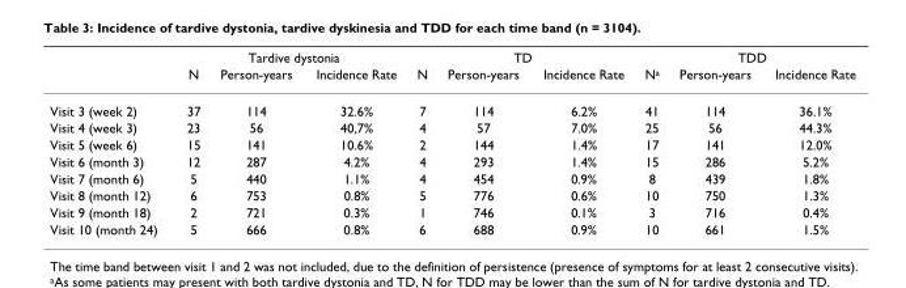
<table><thead><tr><td rowspan="2"></td><td colspan="3">Tardive dystonia</td><td colspan="3">TD</td><td colspan="3">TDD</td></tr><tr><td>N</td><td>Person-years</td><td>Incidence Rate</td><td>N</td><td>Person-years</td><td>Incidence Rate</td><td>N<sup>a</sup></td><td>Person-years</td><td>Incidence Rate</td></tr></thead><tbody><tr><td>Visit 3 (week 2)</td><td>37</td><td>114</td><td>32.6%</td><td>7</td><td>114</td><td>6.2%</td><td>41</td><td>114</td><td>36.1%</td></tr><tr><td>Visit 4 (week 3)</td><td>23</td><td>56</td><td>40,7%</td><td>4</td><td>57</td><td>7.0%</td><td>25</td><td>56</td><td>44.3%</td></tr><tr><td>Visit 5 (week 6)</td><td>15</td><td>141</td><td>10.6%</td><td>2</td><td>144</td><td>1.4%</td><td>17</td><td>141</td><td>12.0%</td></tr><tr><td>Visit 6 (month 3)</td><td>12</td><td>287</td><td>4.2%</td><td>4</td><td>293</td><td>1.4%</td><td>15</td><td>286</td><td>5.2%</td></tr><tr><td>Visit 7 (month 6)</td><td>5</td><td>440</td><td>1.1%</td><td>4</td><td>454</td><td>0.9%</td><td>8</td><td>439</td><td>1.8%</td></tr><tr><td>Visit 8 (month 12)</td><td>6</td><td>753</td><td>0.8%</td><td>5</td><td>776</td><td>0.6%</td><td>10</td><td>750</td><td>1.3%</td></tr><tr><td>Visit 9 (month 18)</td><td>2</td><td>721</td><td>0.3%</td><td>1</td><td>746</td><td>0.1%</td><td>3</td><td>716</td><td>0.4%</td></tr><tr><td>Visit 10 (month 24)</td><td>5</td><td>666</td><td>0.8%</td><td>6</td><td>688</td><td>0.9%</td><td>10</td><td>661</td><td>1.5%</td></tr></tbody></table>